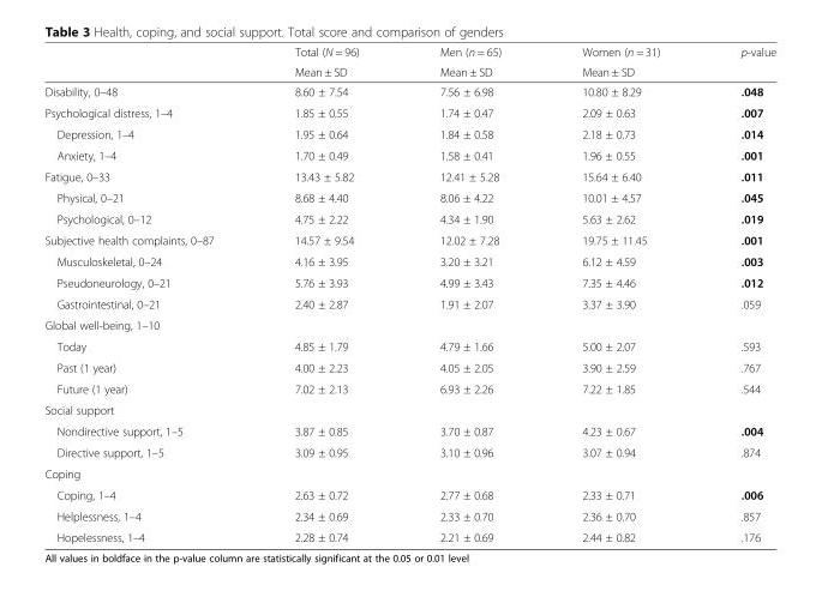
<table><thead><tr><td rowspan="2"></td><td rowspan="2">Total (N = 96) Mean ± SD</td><td rowspan="2">Men (n = 65) Mean ± SD</td><td rowspan="2">Women (n = 31) Mean ± SD</td><td rowspan="2">p-value</td></tr><tr></tr></thead><tbody><tr><td>Disability, 0–48</td><td>8.60 ± 7.54</td><td>7.56 ± 6.98</td><td>10.80 ± 8.29</td><td>.048</td></tr><tr><td>Psychological distress, 1–4</td><td>1.85 ± 0.55</td><td>1.74 ± 0.47</td><td>2.09 ± 0.63</td><td>.007</td></tr><tr><td>Depression, 1–4</td><td>1.95 ± 0.64</td><td>1.84 ± 0.58</td><td>2.18 ± 0.73</td><td>.014</td></tr><tr><td>Anxiety, 1–4</td><td>1.70 ± 0.49</td><td>1.58 ± 0.41</td><td>1.96 ± 0.55</td><td>.001</td></tr><tr><td>Fatigue, 0–33</td><td>13.43 ± 5.82</td><td>12.41 ± 5.28</td><td>15.64 ± 6.40</td><td>.011</td></tr><tr><td>Physical, 0–21</td><td>8.68 ± 4.40</td><td>8.06 ± 4.22</td><td>10.01 ± 4.57</td><td>.045</td></tr><tr><td>Psychological, 0–12</td><td>4.75 ± 2.22</td><td>4.34 ± 1.90</td><td>5.63 ± 2.62</td><td>.019</td></tr><tr><td>Subjective health complaints, 0–87</td><td>14.57 ± 9.54</td><td>12.02 ± 7.28</td><td>19.75 ± 11.45</td><td>.001</td></tr><tr><td>Musculoskeletal, 0–24</td><td>4.16 ± 3.95</td><td>3.20 ± 3.21</td><td>6.12 ± 4.59</td><td>.003</td></tr><tr><td>Pseudoneurology, 0–21</td><td>5.76 ± 3.93</td><td>4.99 ± 3.43</td><td>7.35 ± 4.46</td><td>.012</td></tr><tr><td>Gastrointestinal, 0–21</td><td>2.40 ± 2.87</td><td>1.91 ± 2.07</td><td>3.37 ± 3.90</td><td>.059</td></tr><tr><td colspan="5">Global well-being, 1–10</td></tr><tr><td>Today</td><td>4.85 ± 1.79</td><td>4.79 ± 1.66</td><td>5.00 ± 2.07</td><td>.593</td></tr><tr><td>Past (1 year)</td><td>4.00 ± 2.23</td><td>4.05 ± 2.05</td><td>3.90 ± 2.59</td><td>.767</td></tr><tr><td>Future (1 year)</td><td>7.02 ± 2.13</td><td>6.93 ± 2.26</td><td>7.22 ± 1.85</td><td>.544</td></tr><tr><td colspan="5">Social support</td></tr><tr><td>Nondirective support, 1–5</td><td>3.87 ± 0.85</td><td>3.70 ± 0.87</td><td>4.23 ± 0.67</td><td>.004</td></tr><tr><td>Directive support, 1–5</td><td>3.09 ± 0.95</td><td>3.10 ± 0.96</td><td>3.07 ± 0.94</td><td>.874</td></tr><tr><td colspan="5">Coping</td></tr><tr><td>Coping, 1–4</td><td>2.63 ± 0.72</td><td>2.77 ± 0.68</td><td>2.33 ± 0.71</td><td>.006</td></tr><tr><td>Helplessness, 1–4</td><td>2.34 ± 0.69</td><td>2.33 ± 0.70</td><td>2.36 ± 0.70</td><td>.857</td></tr><tr><td>Hopelessness, 1–4</td><td>2.28 ± 0.74</td><td>2.21 ± 0.69</td><td>2.44 ± 0.82</td><td>.176</td></tr></tbody></table>